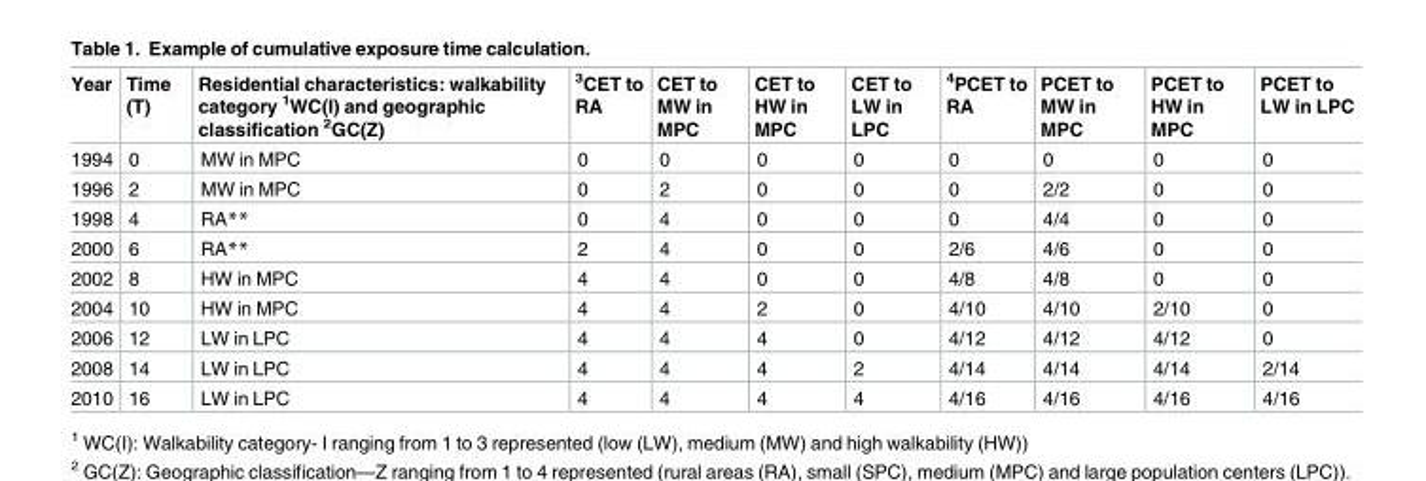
<table><thead><tr><td>Year</td><td>Time (T)</td><td>Residential characteristics: walkability category <sup>1</sup>WC(I) and geographic classification <sup>2</sup>GC(Z)</td><td><sup>3</sup>CET to RA</td><td>CET to MW in MPC</td><td>CET to HW in MPC</td><td>CET to LW in LPC</td><td><sup>4</sup>PCET to RA</td><td>PCET to MW in MPC</td><td>PCET to HW in MPC</td><td>PCET to LW in LPC</td></tr></thead><tbody><tr><td>1994</td><td>0</td><td>MW in MPC</td><td>0</td><td>0</td><td>0</td><td>0</td><td>0</td><td>0</td><td>0</td><td>0</td></tr><tr><td>1996</td><td>2</td><td>MW in MPC</td><td>0</td><td>2</td><td>0</td><td>0</td><td>0</td><td>2/2</td><td>0</td><td>0</td></tr><tr><td>1998</td><td>4</td><td>RA**</td><td>0</td><td>4</td><td>0</td><td>0</td><td>0</td><td>4/4</td><td>0</td><td>0</td></tr><tr><td>2000</td><td>6</td><td>RA**</td><td>2</td><td>4</td><td>0</td><td>0</td><td>2/6</td><td>4/6</td><td>0</td><td>0</td></tr><tr><td>2002</td><td>8</td><td>HW in MPC</td><td>4</td><td>4</td><td>0</td><td>0</td><td>4/8</td><td>4/8</td><td>0</td><td>0</td></tr><tr><td>2004</td><td>10</td><td>HW in MPC</td><td>4</td><td>4</td><td>2</td><td>0</td><td>4/10</td><td>4/10</td><td>2/10</td><td>0</td></tr><tr><td>2006</td><td>12</td><td>LW in LPC</td><td>4</td><td>4</td><td>4</td><td>0</td><td>4/12</td><td>4/12</td><td>4/12</td><td>0</td></tr><tr><td>2008</td><td>14</td><td>LW in LPC</td><td>4</td><td>4</td><td>4</td><td>2</td><td>4/14</td><td>4/14</td><td>4/14</td><td>2/14</td></tr><tr><td>2010</td><td>16</td><td>LW in LPC</td><td>4</td><td>4</td><td>4</td><td>4</td><td>4/16</td><td>4/16</td><td>4/16</td><td>4/16</td></tr></tbody></table>